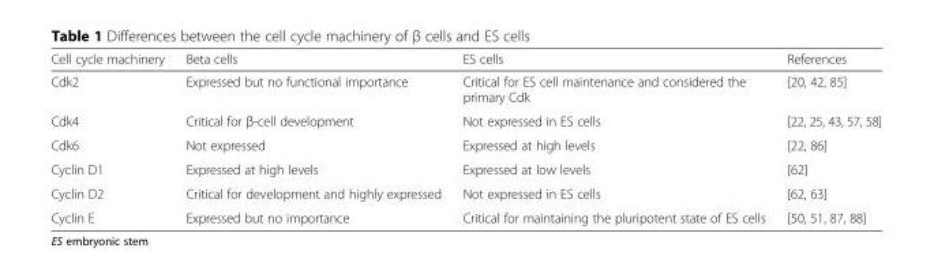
<table><thead><tr><td>Cell cycle machinery</td><td>Beta cells</td><td>ES cells</td><td>References</td></tr></thead><tbody><tr><td>Cdk2</td><td>Expressed but no functional importance</td><td>Critical for ES cell maintenance and considered the primary Cdk</td><td>[20, 42, 85]</td></tr><tr><td>Cdk4</td><td>Critical for β-cell development</td><td>Not expressed in ES cells</td><td>[22, 25, 43, 57, 58]</td></tr><tr><td>Cdk6</td><td>Not expressed</td><td>Expressed at high levels</td><td>[22, 86]</td></tr><tr><td>Cyclin D1</td><td>Expressed at high levels</td><td>Expressed at low levels</td><td>[62]</td></tr><tr><td>Cyclin D2</td><td>Critical for development and highly expressed</td><td>Not expressed in ES cells</td><td>[62, 63]</td></tr><tr><td>Cyclin E</td><td>Expressed but no importance</td><td>Critical for maintaining the pluripotent state of ES cells</td><td>[50, 51, 87, 88]</td></tr></tbody></table>